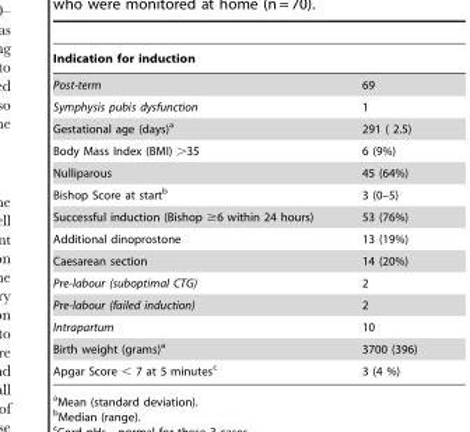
<table><thead><tr><td>Indication for induction</td><td></td></tr></thead><tbody><tr><td>Post-term</td><td>69</td></tr><tr><td>Symphysis pubis dysfunction</td><td>1</td></tr><tr><td>Gestational age (days)<sup>a</sup></td><td>291 ( 2.5)</td></tr><tr><td>Body Mass Index (BMI) &gt;35</td><td>6 (9%)</td></tr><tr><td>Nulliparous</td><td>45 (64%)</td></tr><tr><td>Bishop Score at start<sup>b</sup></td><td>3 (0–5)</td></tr><tr><td>Successful induction (Bishop ≥6 within 24 hours)</td><td>53 (76%)</td></tr><tr><td>Additional dinoprostone</td><td>13 (19%)</td></tr><tr><td>Caesarean section</td><td>14 (20%)</td></tr><tr><td>Pre-labour (suboptimal CTG)</td><td>2</td></tr><tr><td>Pre-labour (failed induction)</td><td>2</td></tr><tr><td>Intrapartum</td><td>10</td></tr><tr><td>Birth weight (grams)<sup>a</sup></td><td>3700 (396)</td></tr><tr><td>Apgar Score &lt; 7 at 5 minutes<sup>c</sup></td><td>3 (4 %)</td></tr></tbody></table>